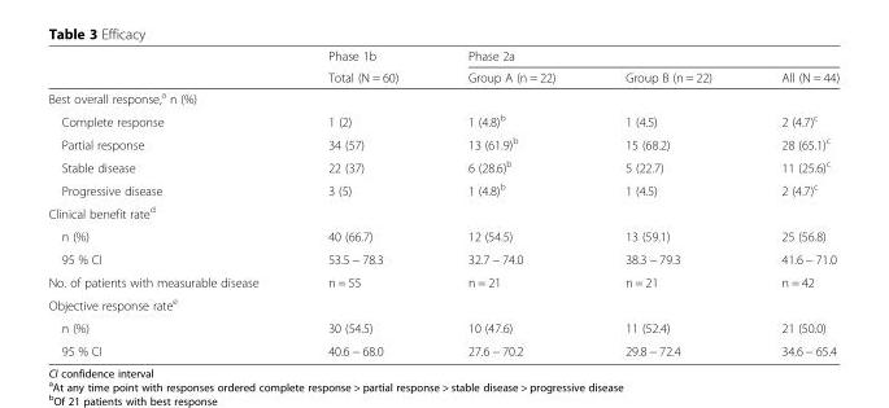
<table><thead><tr><td rowspan="2"></td><td rowspan="2">Phase 1b Total (N = 60)</td><td colspan="3">Phase 2a</td></tr><tr><td>Group A (n = 22)</td><td>Group B (n = 22)</td><td>All (N = 44)</td></tr></thead><tbody><tr><td colspan="5">Best overall response,<sup>a</sup> n (%)</td></tr><tr><td>Complete response</td><td>1 (2)</td><td>1 (4.8)<sup>b</sup></td><td>1 (4.5)</td><td>2 (4.7)<sup>c</sup></td></tr><tr><td>Partial response</td><td>34 (57)</td><td>13 (61.9)<sup>b</sup></td><td>15 (68.2)</td><td>28 (65.1)<sup>c</sup></td></tr><tr><td>Stable disease</td><td>22 (37)</td><td>6 (28.6)<sup>b</sup></td><td>5 (22.7)</td><td>11 (25.6)<sup>c</sup></td></tr><tr><td>Progressive disease</td><td>3 (5)</td><td>1 (4.8)<sup>b</sup></td><td>1 (4.5)</td><td>2 (4.7)<sup>c</sup></td></tr><tr><td colspan="5">Clinical benefit rate<sup>d</sup></td></tr><tr><td>n (%)</td><td>40 (66.7)</td><td>12 (54.5)</td><td>13 (59.1)</td><td>25 (56.8)</td></tr><tr><td>95 % CI</td><td>53.5 − 78.3</td><td>32.7 − 74.0</td><td>38.3 − 79.3</td><td>41.6 − 71.0</td></tr><tr><td>No. of patients with measurable disease</td><td>n = 55</td><td>n = 21</td><td>n = 21</td><td>n = 42</td></tr><tr><td colspan="5">Objective response rate<sup>e</sup></td></tr><tr><td>n (%)</td><td>30 (54.5)</td><td>10 (47.6)</td><td>11 (52.4)</td><td>21 (50.0)</td></tr><tr><td>95 % CI</td><td>40.6 − 68.0</td><td>27.6 − 70.2</td><td>29.8 − 72.4</td><td>34.6 − 65.4</td></tr></tbody></table>